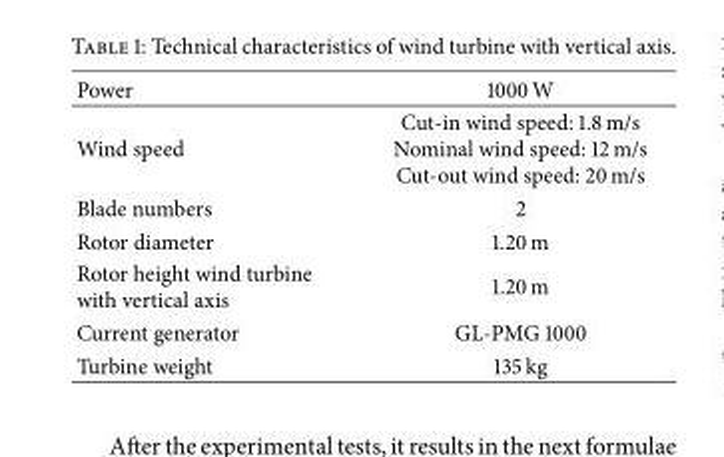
<table><thead><tr><td>Power</td><td>1000 W</td></tr></thead><tbody><tr><td>Wind speed</td><td>Cut-in wind speed: 1.8 m/s Nominal wind speed: 12 m/s Cut-out wind speed: 20 m/s</td></tr><tr><td>Blade numbers</td><td>2</td></tr><tr><td>Rotor diameter</td><td>1.20 m</td></tr><tr><td>Rotor height wind turbine with vertical axis</td><td>1.20 m</td></tr><tr><td>Current generator</td><td>GL-PMG 1000</td></tr><tr><td>Turbine weight</td><td>135 kg</td></tr></tbody></table>